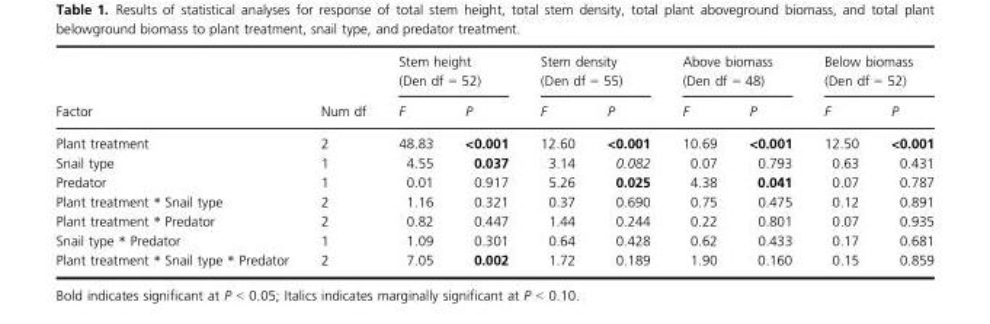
<table><thead><tr><td rowspan="2">Factor</td><td rowspan="2">Num df</td><td colspan="2">Stem height (Den df = 52)</td><td colspan="2">Stem density (Den df = 55)</td><td colspan="2">Above biomass (Den df = 48)</td><td colspan="2">Below biomass (Den df = 52)</td></tr><tr><td>F</td><td>P</td><td>F</td><td>P</td><td>F</td><td>P</td><td>F</td><td>P</td></tr></thead><tbody><tr><td>Plant treatment</td><td>2</td><td>48.83</td><td>&lt;0.001</td><td>12.60</td><td>&lt;0.001</td><td>10.69</td><td>&lt;0.001</td><td>12.50</td><td>&lt;0.001</td></tr><tr><td>Snail type</td><td>1</td><td>4.55</td><td>0.037</td><td>3.14</td><td>0.082</td><td>0.07</td><td>0.793</td><td>0.63</td><td>0.431</td></tr><tr><td>Predator</td><td>1</td><td>0.01</td><td>0.917</td><td>5.26</td><td>0.025</td><td>4.38</td><td>0.041</td><td>0.07</td><td>0.787</td></tr><tr><td>Plant treatment * Snail type</td><td>2</td><td>1.16</td><td>0.321</td><td>0.37</td><td>0.690</td><td>0.75</td><td>0.475</td><td>0.12</td><td>0.891</td></tr><tr><td>Plant treatment * Predator</td><td>2</td><td>0.82</td><td>0.447</td><td>1.44</td><td>0.244</td><td>0.22</td><td>0.801</td><td>0.07</td><td>0.935</td></tr><tr><td>Snail type * Predator</td><td>1</td><td>1.09</td><td>0.301</td><td>0.64</td><td>0.428</td><td>0.62</td><td>0.433</td><td>0.17</td><td>0.681</td></tr><tr><td>Plant treatment * Snail type * Predator</td><td>2</td><td>7.05</td><td>0.002</td><td>1.72</td><td>0.189</td><td>1.90</td><td>0.160</td><td>0.15</td><td>0.859</td></tr></tbody></table>